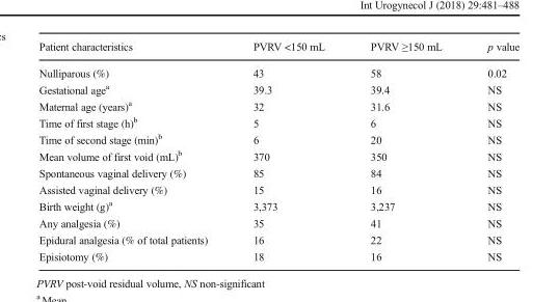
<table><thead><tr><td>Patient characteristics</td><td>PVRV &lt;150 mL</td><td>PVRV ≥150 mL</td><td>p value</td></tr></thead><tbody><tr><td>Nulliparous (%)</td><td>43</td><td>58</td><td>0.02</td></tr><tr><td>Gestational age<sup>a</sup></td><td>39.3</td><td>39.4</td><td>NS</td></tr><tr><td>Maternal age (years)<sup>a</sup></td><td>32</td><td>31.6</td><td>NS</td></tr><tr><td>Time of first stage (h)<sup>b</sup></td><td>5</td><td>6</td><td>NS</td></tr><tr><td>Time of second stage (min)<sup>b</sup></td><td>6</td><td>20</td><td>NS</td></tr><tr><td>Mean volume of first void (mL)<sup>b</sup></td><td>370</td><td>350</td><td>NS</td></tr><tr><td>Spontaneous vaginal delivery (%)</td><td>85</td><td>84</td><td>NS</td></tr><tr><td>Assisted vaginal delivery (%)</td><td>15</td><td>16</td><td>NS</td></tr><tr><td>Birth weight (g)<sup>a</sup></td><td>3,373</td><td>3,237</td><td>NS</td></tr><tr><td>Any analgesia (%)</td><td>35</td><td>41</td><td>NS</td></tr><tr><td>Epidural analgesia (% of total patients)</td><td>16</td><td>22</td><td>NS</td></tr><tr><td>Episiotomy (%)</td><td>18</td><td>16</td><td>NS</td></tr></tbody></table>